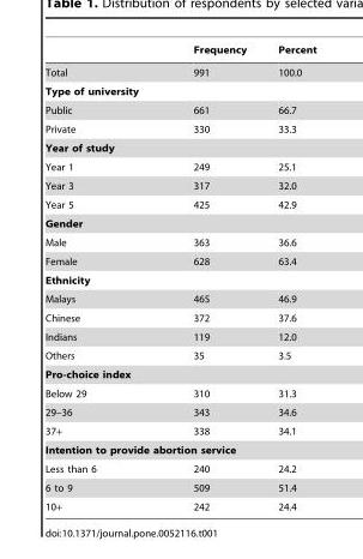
<table><thead><tr><td></td><td>Frequency</td><td>Percent</td></tr></thead><tbody><tr><td>Total</td><td>991</td><td>100.0</td></tr><tr><td colspan="3">Type of university</td></tr><tr><td>Public</td><td>661</td><td>66.7</td></tr><tr><td>Private</td><td>330</td><td>33.3</td></tr><tr><td colspan="3">Year of study</td></tr><tr><td>Year 1</td><td>249</td><td>25.1</td></tr><tr><td>Year 3</td><td>317</td><td>32.0</td></tr><tr><td>Year 5</td><td>425</td><td>42.9</td></tr><tr><td colspan="3">Gender</td></tr><tr><td>Male</td><td>363</td><td>36.6</td></tr><tr><td>Female</td><td>628</td><td>63.4</td></tr><tr><td colspan="3">Ethnicity</td></tr><tr><td>Malays</td><td>465</td><td>46.9</td></tr><tr><td>Chinese</td><td>372</td><td>37.6</td></tr><tr><td>Indians</td><td>119</td><td>12.0</td></tr><tr><td>Others</td><td>35</td><td>3.5</td></tr><tr><td colspan="3">Pro-choice index</td></tr><tr><td>Below 29</td><td>310</td><td>31.3</td></tr><tr><td>29–36</td><td>343</td><td>34.6</td></tr><tr><td>37+</td><td>338</td><td>34.1</td></tr><tr><td colspan="3">Intention to provide abortion service</td></tr><tr><td>Less than 6</td><td>240</td><td>24.2</td></tr><tr><td>6 to 9</td><td>509</td><td>51.4</td></tr><tr><td>10+</td><td>242</td><td>24.4</td></tr></tbody></table>